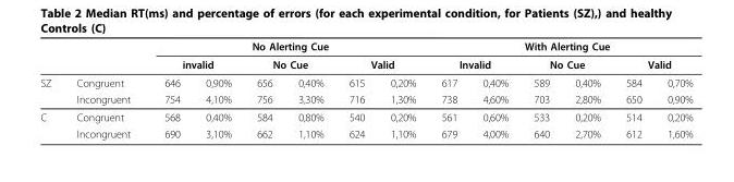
<table><thead><tr><td rowspan="3">SZ</td><td rowspan="3">Congruent</td><td colspan="6">No Alerting Cue</td><td colspan="6">With Alerting Cue</td></tr><tr><td colspan="2">invalid</td><td colspan="2">No Cue</td><td colspan="2">Valid</td><td colspan="2">Invalid</td><td colspan="2">No Cue</td><td colspan="2">Valid</td></tr><tr><td>646</td><td>0,90%</td><td>656</td><td>0,40%</td><td>615</td><td>0,20%</td><td>617</td><td>0,40%</td><td>589</td><td>0,40%</td><td>584</td><td>0,70%</td></tr></thead><tbody><tr><td></td><td>Incongruent</td><td>754</td><td>4,10%</td><td>756</td><td>3,30%</td><td>716</td><td>1,30%</td><td>738</td><td>4,60%</td><td>703</td><td>2,80%</td><td>650</td><td>0,90%</td></tr><tr><td rowspan="2">C</td><td>Congruent</td><td>568</td><td>0,40%</td><td>584</td><td>0,80%</td><td>540</td><td>0,20%</td><td>561</td><td>0,60%</td><td>533</td><td>0,20%</td><td>514</td><td>0,20%</td></tr><tr><td>Incongruent</td><td>690</td><td>3,10%</td><td>662</td><td>1,10%</td><td>624</td><td>1,10%</td><td>679</td><td>4,00%</td><td>640</td><td>2,70%</td><td>612</td><td>1,60%</td></tr></tbody></table>